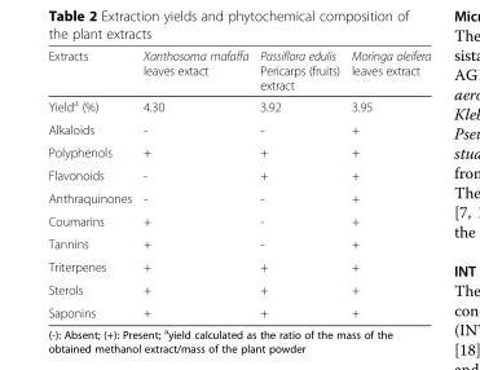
<table><thead><tr><td>Extracts</td><td>Xanthosoma mafaffa leaves extact</td><td>Passiflora edulis Pericarps (fruits) extract</td><td>Moringa oleifera leaves extract</td></tr></thead><tbody><tr><td>Yield<sup>a</sup> (%)</td><td>4.30</td><td>3.92</td><td>3.95</td></tr><tr><td>Alkaloids</td><td>-</td><td>-</td><td>+</td></tr><tr><td>Polyphenols</td><td>+</td><td>+</td><td>+</td></tr><tr><td>Flavonoids</td><td>-</td><td>+</td><td>+</td></tr><tr><td>Anthraquinones</td><td>-</td><td>-</td><td>+</td></tr><tr><td>Coumarins</td><td>+</td><td>-</td><td>+</td></tr><tr><td>Tannins</td><td>+</td><td>-</td><td>+</td></tr><tr><td>Triterpenes</td><td>+</td><td>+</td><td>+</td></tr><tr><td>Sterols</td><td>+</td><td>+</td><td>+</td></tr><tr><td>Saponins</td><td>+</td><td>+</td><td>+</td></tr></tbody></table>